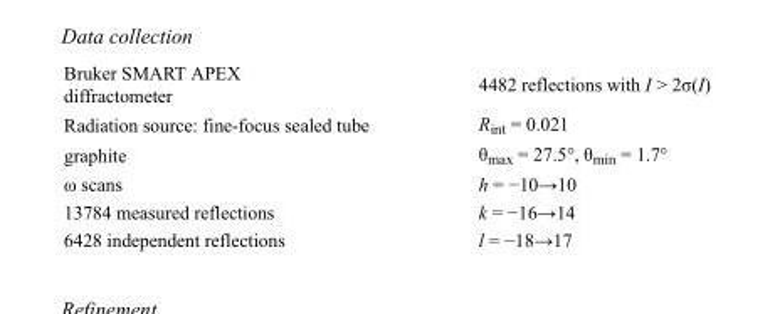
<table><tbody><tr><td>Bruker SMART APEX diffractometer</td><td>4482 reflections with I &gt; 2σ(I)</td></tr><tr><td>Radiation source: fine-focus sealed tube</td><td>R<sub>int</sub> = 0.021</td></tr><tr><td>graphite</td><td>θ<sub>max</sub> = 27.5°, θ<sub>min</sub> = 1.7°</td></tr><tr><td>ω scans</td><td>h = −10→10</td></tr><tr><td>13784 measured reflections</td><td>k = −16→14</td></tr><tr><td>6428 independent reflections</td><td>l = −18→17</td></tr></tbody></table>